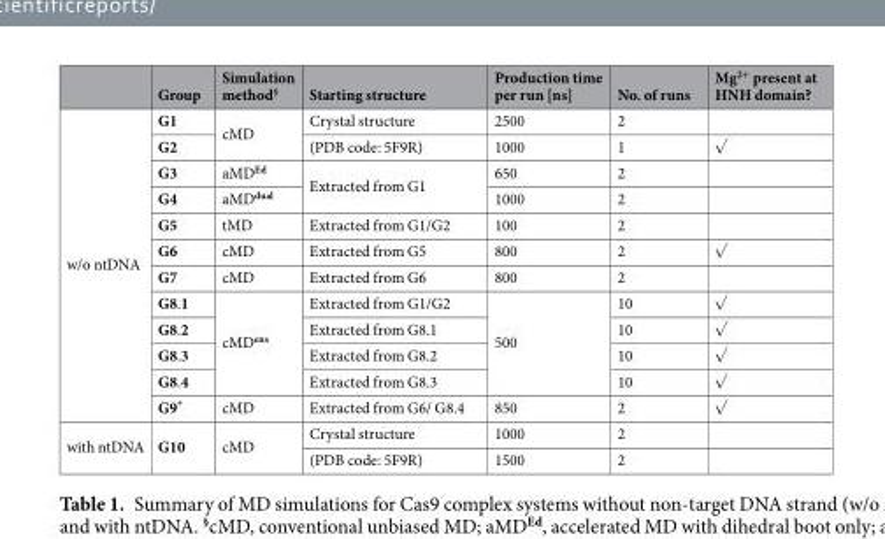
<table><thead><tr><td></td><td>Group</td><td>Simulation method<sup>§</sup></td><td>Starting structure</td><td>Production time per run [ns]</td><td>No. of runs</td><td>Mg<sup>2+</sup> present at HNH domain?</td></tr></thead><tbody><tr><td rowspan="12">w/o ntDNA</td><td>G1</td><td rowspan="2">cMD</td><td>Crystal structure</td><td>2500</td><td>2</td><td></td></tr><tr><td>G2</td><td>(PDB code: 5F9R)</td><td>1000</td><td>1</td><td>√</td></tr><tr><td>G3</td><td>aMD<sup>Ed</sup></td><td rowspan="2">Extracted from G1</td><td>650</td><td>2</td><td></td></tr><tr><td>G4</td><td>aMD<sup>dual</sup></td><td>1000</td><td>2</td><td></td></tr><tr><td>G5</td><td>tMD</td><td>Extracted from G1/G2</td><td>100</td><td>2</td><td></td></tr><tr><td>G6</td><td>cMD</td><td>Extracted from G5</td><td>800</td><td>2</td><td>√</td></tr><tr><td>G7</td><td>cMD</td><td>Extracted from G6</td><td>800</td><td>2</td><td></td></tr><tr><td>G8.1</td><td rowspan="4">cMD<sup>ens</sup></td><td>Extracted from G1/G2</td><td rowspan="4">500</td><td>10</td><td>√</td></tr><tr><td>G8.2</td><td>Extracted from G8.1</td><td>10</td><td>√</td></tr><tr><td>G8.3</td><td>Extracted from G8.2</td><td>10</td><td>√</td></tr><tr><td>G8.4</td><td>Extracted from G8.3</td><td>10</td><td>√</td></tr><tr><td>G9*</td><td>cMD</td><td>Extracted from G6/ G8.4</td><td>850</td><td>2</td><td>√</td></tr><tr><td rowspan="2">with ntDNA</td><td rowspan="2">G10</td><td rowspan="2">cMD</td><td>Crystal structure</td><td>1000</td><td>2</td><td></td></tr><tr><td>(PDB code: 5F9R)</td><td>1500</td><td>2</td><td></td></tr></tbody></table>